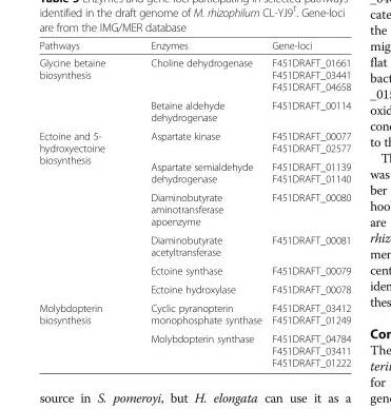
<table><thead><tr><td>Pathways</td><td>Enzymes</td><td>Gene-loci</td></tr></thead><tbody><tr><td rowspan="2">Glycine betaine biosynthesis</td><td>Choline dehydrogenase</td><td>F451DRAFT_01661 F451DRAFT_03441 F451DRAFT_04658</td></tr><tr><td>Betaine aldehyde dehydrogenase</td><td>F451DRAFT_00114</td></tr><tr><td rowspan="6">Ectoine and 5- hydroxyectoine biosynthesis</td><td>Aspartate kinase</td><td>F451DRAFT_00077 F451DRAFT_02577</td></tr><tr><td>Aspartate semialdehyde dehydrogenase</td><td>F451DRAFT_01139 F451DRAFT_01140</td></tr><tr><td>Diaminobutyrate aminotransferase apoenzyme</td><td>F451DRAFT_00080</td></tr><tr><td>Diaminobutyrate acetyltransferase</td><td>F451DRAFT_00081</td></tr><tr><td>Ectoine synthase</td><td>F451DRAFT_00079</td></tr><tr><td>Ectoine hydroxylase</td><td>F451DRAFT_00078</td></tr><tr><td rowspan="2">Molybdopterin biosynthesis</td><td>Cyclic pyranopterin monophosphate synthase</td><td>F451DRAFT_03412 F451DRAFT_01249</td></tr><tr><td>Molybdopterin synthase</td><td>F451DRAFT_04784 F451DRAFT_03411 F451DRAFT_01222</td></tr></tbody></table>